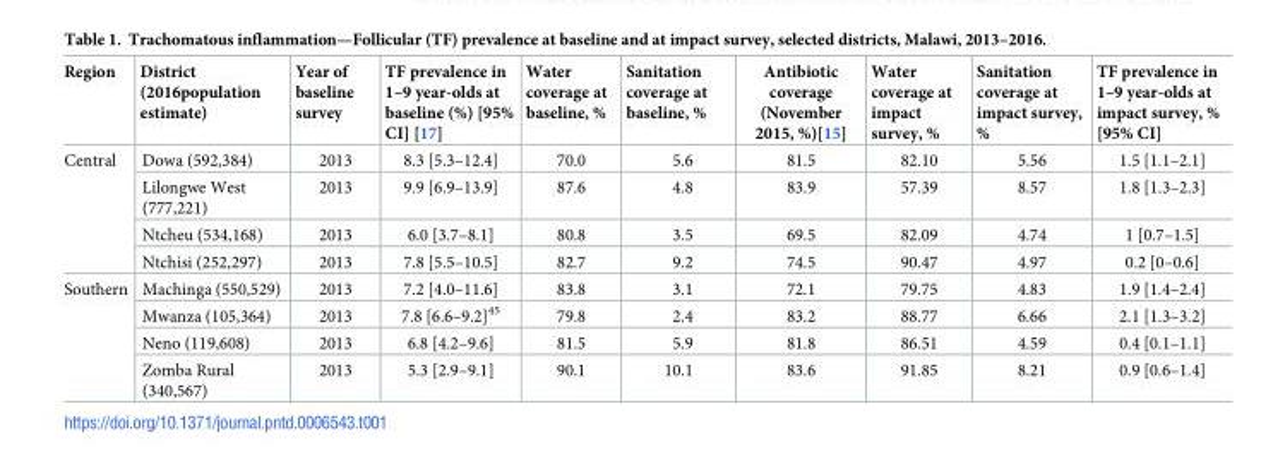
<table><thead><tr><td>Region</td><td>District (2016population estimate)</td><td>Year of baseline survey</td><td>TF prevalence in 1–9 year-olds at baseline (%) [95% CI] [17]</td><td>Water coverage at baseline, %</td><td>Sanitation coverage at baseline, %</td><td>Antibiotic coverage (November 2015, %)[15]</td><td>Water coverage at impact survey, %</td><td>Sanitation coverage at impact survey, %</td><td>TF prevalence in 1–9 year-olds at impact survey, % [95% CI]</td></tr></thead><tbody><tr><td rowspan="4">Central</td><td>Dowa (592,384)</td><td>2013</td><td>8.3 [5.3–12.4]</td><td>70.0</td><td>5.6</td><td>81.5</td><td>82.10</td><td>5.56</td><td>1.5 [1.1–2.1]</td></tr><tr><td>Lilongwe West (777,221)</td><td>2013</td><td>9.9 [6.9–13.9]</td><td>87.6</td><td>4.8</td><td>83.9</td><td>57.39</td><td>8.57</td><td>1.8 [1.3–2.3]</td></tr><tr><td>Ntcheu (534,168)</td><td>2013</td><td>6.0 [3.7–8.1]</td><td>80.8</td><td>3.5</td><td>69.5</td><td>82.09</td><td>4.74</td><td>1 [0.7–1.5]</td></tr><tr><td>Ntchisi (252,297)</td><td>2013</td><td>7.8 [5.5–10.5]</td><td>82.7</td><td>9.2</td><td>74.5</td><td>90.47</td><td>4.97</td><td>0.2 [0–0.6]</td></tr><tr><td rowspan="4">Southern</td><td>Machinga (550,529)</td><td>2013</td><td>7.2 [4.0–11.6]</td><td>83.8</td><td>3.1</td><td>72.1</td><td>79.75</td><td>4.83</td><td>1.9 [1.4–2.4]</td></tr><tr><td>Mwanza (105,364)</td><td>2013</td><td>7.8 [6.6–9.2]<sup>45</sup></td><td>79.8</td><td>2.4</td><td>83.2</td><td>88.77</td><td>6.66</td><td>2.1 [1.3–3.2]</td></tr><tr><td>Neno (119,608)</td><td>2013</td><td>6.8 [4.2–9.6]</td><td>81.5</td><td>5.9</td><td>81.8</td><td>86.51</td><td>4.59</td><td>0.4 [0.1–1.1]</td></tr><tr><td>Zomba Rural (340,567)</td><td>2013</td><td>5.3 [2.9–9.1]</td><td>90.1</td><td>10.1</td><td>83.6</td><td>91.85</td><td>8.21</td><td>0.9 [0.6–1.4]</td></tr></tbody></table>